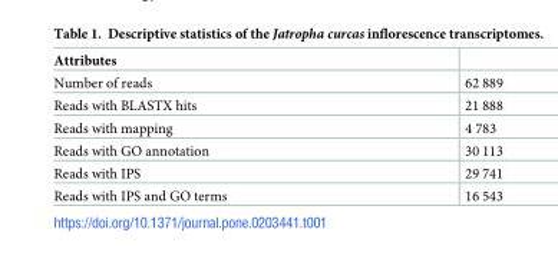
<table><thead><tr><td>Attributes</td><td></td></tr></thead><tbody><tr><td>Number of reads</td><td>62 889</td></tr><tr><td>Reads with BLASTX hits</td><td>21 888</td></tr><tr><td>Reads with mapping</td><td>4 783</td></tr><tr><td>Reads with GO annotation</td><td>30 113</td></tr><tr><td>Reads with IPS</td><td>29 741</td></tr><tr><td>Reads with IPS and GO terms</td><td>16 543</td></tr></tbody></table>